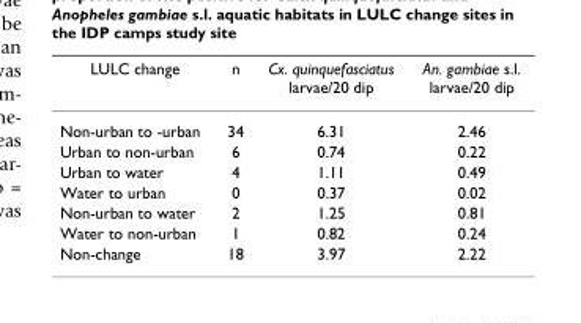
<table><thead><tr><td>LULC change</td><td>n</td><td>Cx. quinquefasciatus larvae/20 dip</td><td>An. gambiae s.l. larvae/20 dip</td></tr></thead><tbody><tr><td>Non-urban to -urban</td><td>34</td><td>6.31</td><td>2.46</td></tr><tr><td>Urban to non-urban</td><td>6</td><td>0.74</td><td>0.22</td></tr><tr><td>Urban to water</td><td>4</td><td>1.11</td><td>0.49</td></tr><tr><td>Water to urban</td><td>0</td><td>0.37</td><td>0.02</td></tr><tr><td>Non-urban to water</td><td>2</td><td>1.25</td><td>0.81</td></tr><tr><td>Water to non-urban</td><td>1</td><td>0.82</td><td>0.24</td></tr><tr><td>Non-change</td><td>18</td><td>3.97</td><td>2.22</td></tr></tbody></table>